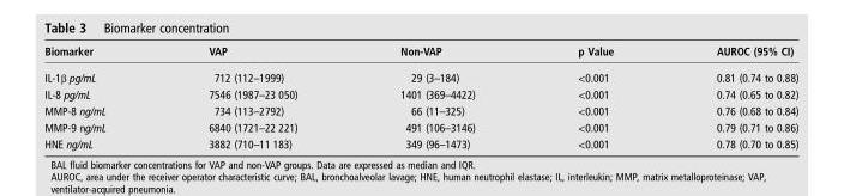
<table><thead><tr><td>Biomarker</td><td>VAP</td><td>Non-VAP</td><td>p Value</td><td>AUROC (95% CI)</td></tr></thead><tbody><tr><td>IL-1β pg/mL</td><td>712 (112–1999)</td><td>29 (3–184)</td><td>&lt;0.001</td><td>0.81 (0.74 to 0.88)</td></tr><tr><td>IL-8 pg/mL</td><td>7546 (1987–23 050)</td><td>1401 (369–4422)</td><td>&lt;0.001</td><td>0.74 (0.65 to 0.82)</td></tr><tr><td>MMP-8 ng/mL</td><td>734 (113–2792)</td><td>66 (11–325)</td><td>&lt;0.001</td><td>0.76 (0.68 to 0.84)</td></tr><tr><td>MMP-9 ng/mL</td><td>6840 (1721–22 221)</td><td>491 (106–3146)</td><td>&lt;0.001</td><td>0.79 (0.71 to 0.86)</td></tr><tr><td>HNE ng/mL</td><td>3882 (710–11 183)</td><td>349 (96–1473)</td><td>&lt;0.001</td><td>0.78 (0.70 to 0.85)</td></tr></tbody></table>